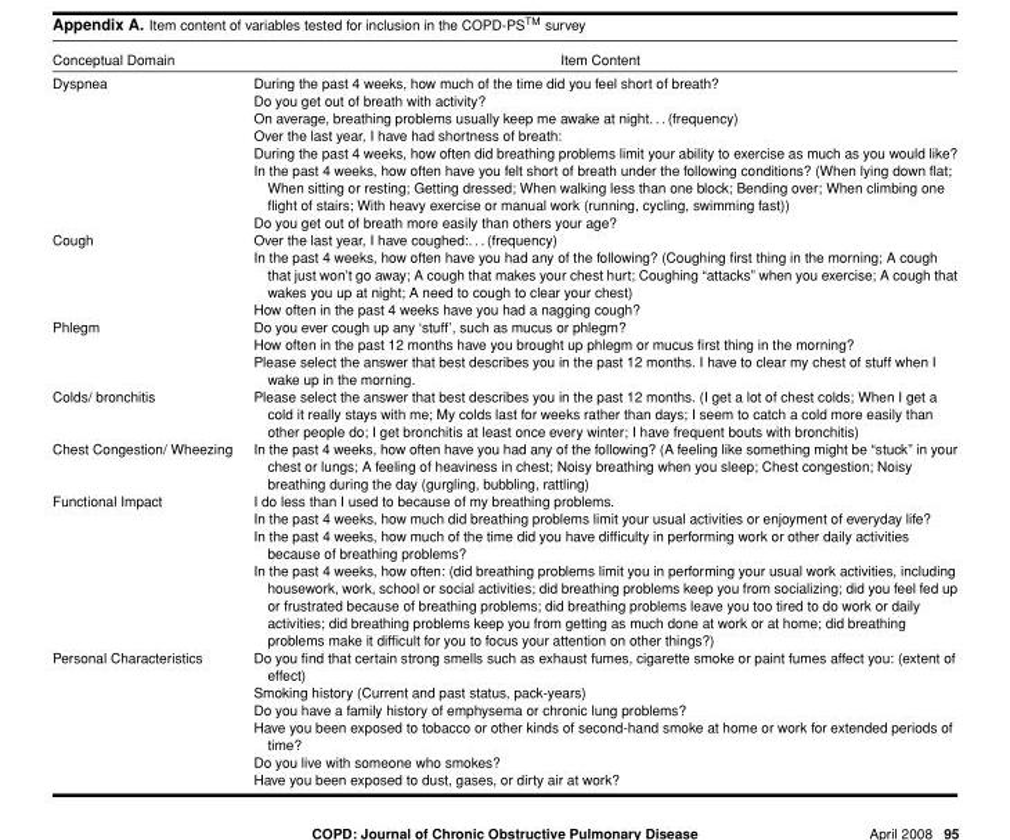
<table><thead><tr><td>Conceptual Domain</td><td>Item Content</td></tr></thead><tbody><tr><td rowspan="7">Dyspnea</td><td>During the past 4 weeks, how much of the time did you feel short of breath?</td></tr><tr><td>Do you get out of breath with activity?</td></tr><tr><td>On average, breathing problems usually keep me awake at night. . . (frequency)</td></tr><tr><td>Over the last year, I have had shortness of breath:</td></tr><tr><td>During the past 4 weeks, how often did breathing problems limit your ability to exercise as much as you would like?</td></tr><tr><td>In the past 4 weeks, how often have you felt short of breath under the following conditions? (When lying down flat; When sitting or resting; Getting dressed; When walking less than one block; Bending over; When climbing one flight of stairs; With heavy exercise or manual work (running, cycling, swimming fast))</td></tr><tr><td>Do you get out of breath more easily than others your age?</td></tr><tr><td rowspan="3">Cough</td><td>Over the last year, I have coughed:. . . (frequency)</td></tr><tr><td>In the past 4 weeks, how often have you had any of the following? (Coughing first thing in the morning; A cough that just won’t go away; A cough that makes your chest hurt; Coughing “attacks” when you exercise; A cough that wakes you up at night; A need to cough to clear your chest)</td></tr><tr><td>How often in the past 4 weeks have you had a nagging cough?</td></tr><tr><td rowspan="3">Phlegm</td><td>Do you ever cough up any ‘stuff’, such as mucus or phlegm?</td></tr><tr><td>How often in the past 12 months have you brought up phlegm or mucus first thing in the morning?</td></tr><tr><td>Please select the answer that best describes you in the past 12 months. I have to clear my chest of stuff when I wake up in the morning.</td></tr><tr><td>Colds/ bronchitis</td><td>Please select the answer that best describes you in the past 12 months. (I get a lot of chest colds; When I get a cold it really stays with me; My colds last for weeks rather than days; I seem to catch a cold more easily than other people do; I get bronchitis at least once every winter; I have frequent bouts with bronchitis)</td></tr><tr><td>Chest Congestion/ Wheezing</td><td>In the past 4 weeks, how often have you had any of the following? (A feeling like something might be “stuck” in your chest or lungs; A feeling of heaviness in chest; Noisy breathing when you sleep; Chest congestion; Noisy breathing during the day (gurgling, bubbling, rattling)</td></tr><tr><td rowspan="4">Functional Impact</td><td>I do less than I used to because of my breathing problems.</td></tr><tr><td>In the past 4 weeks, how much did breathing problems limit your usual activities or enjoyment of everyday life?</td></tr><tr><td>In the past 4 weeks, how much of the time did you have difficulty in performing work or other daily activities because of breathing problems?</td></tr><tr><td>In the past 4 weeks, how often: (did breathing problems limit you in performing your usual work activities, including housework, work, school or social activities; did breathing problems keep you from socializing; did you feel fed up or frustrated because of breathing problems; did breathing problems leave you too tired to do work or daily activities; did breathing problems keep you from getting as much done at work or at home; did breathing problems make it difficult for you to focus your attention on other things?)</td></tr><tr><td rowspan="5">Personal Characteristics</td><td>Do you find that certain strong smells such as exhaust fumes, cigarette smoke or paint fumes affect you: (extent of effect)</td></tr><tr><td>Smoking history (Current and past status, pack-years)</td></tr><tr><td>Do you have a family history of emphysema or chronic lung problems? Have you been exposed to tobacco or other kinds of second-hand smoke at home or work for extended periods of time?</td></tr><tr><td>Do you live with someone who smokes?</td></tr><tr><td>Have you been exposed to dust, gases, or dirty air at work?</td></tr></tbody></table>